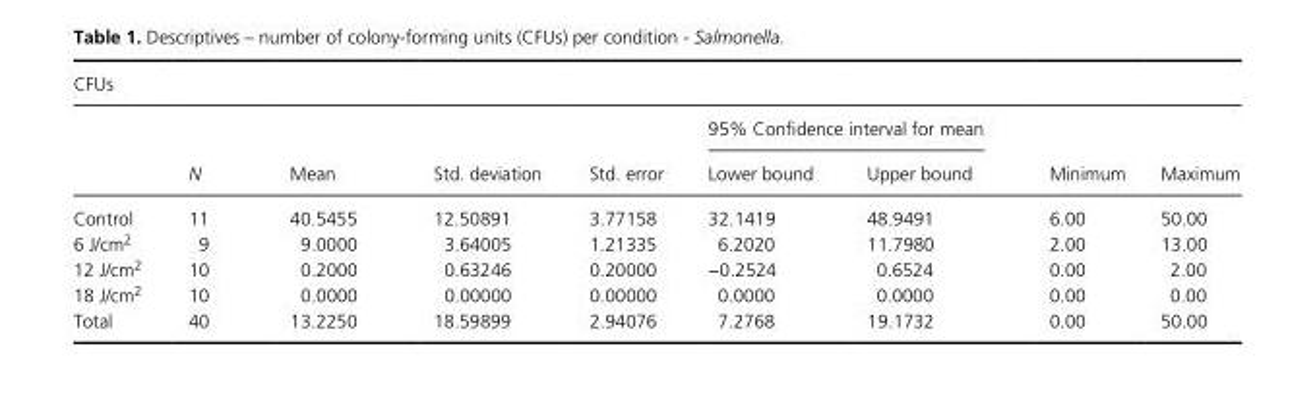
<table><thead><tr><td colspan="9">CFUs</td></tr><tr><td rowspan="2"></td><td rowspan="2">N</td><td rowspan="2">Mean</td><td rowspan="2">Std. deviation</td><td rowspan="2">Std. error</td><td colspan="2">95% Confidence interval for mean</td><td rowspan="2">Minimum</td><td rowspan="2">Maximum</td></tr><tr><td>Lower bound</td><td>Upper bound</td></tr></thead><tbody><tr><td>Control</td><td>11</td><td>40.5455</td><td>12.50891</td><td>3.77158</td><td>32.1419</td><td>48.9491</td><td>6.00</td><td>50.00</td></tr><tr><td>6 J/cm<sup>2</sup></td><td>9</td><td>9.0000</td><td>3.64005</td><td>1.21335</td><td>6.2020</td><td>11.7980</td><td>2.00</td><td>13.00</td></tr><tr><td>12 J/cm<sup>2</sup></td><td>10</td><td>0.2000</td><td>0.63246</td><td>0.20000</td><td>−0.2524</td><td>0.6524</td><td>0.00</td><td>2.00</td></tr><tr><td>18 J/cm<sup>2</sup></td><td>10</td><td>0.0000</td><td>0.00000</td><td>0.00000</td><td>0.0000</td><td>0.0000</td><td>0.00</td><td>0.00</td></tr><tr><td>Total</td><td>40</td><td>13.2250</td><td>18.59899</td><td>2.94076</td><td>7.2768</td><td>19.1732</td><td>0.00</td><td>50.00</td></tr></tbody></table>